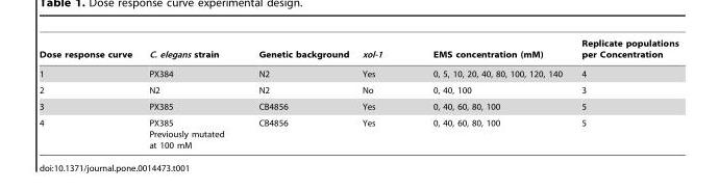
<table><thead><tr><td>Dose response curve</td><td>C. elegans strain</td><td>Genetic background</td><td>xol-1</td><td>EMS concentration (mM)</td><td>Replicate populations per Concentration</td></tr></thead><tbody><tr><td>1</td><td>PX384</td><td>N2</td><td>Yes</td><td>0, 5, 10, 20, 40, 80, 100, 120, 140</td><td>4</td></tr><tr><td>2</td><td>N2</td><td>N2</td><td>No</td><td>0, 40, 100</td><td>3</td></tr><tr><td>3</td><td>PX385</td><td>CB4856</td><td>Yes</td><td>0, 40, 60, 80, 100</td><td>5</td></tr><tr><td>4</td><td>PX385 Previously mutated at 100 mM</td><td>CB4856</td><td>Yes</td><td>0, 40, 60, 80, 100</td><td>5</td></tr></tbody></table>